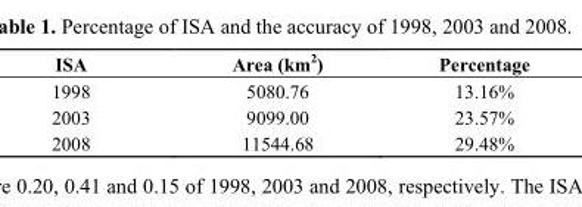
<table><thead><tr><td>ISA</td><td>Area (km<sup>2</sup>)</td><td>Percentage</td></tr></thead><tbody><tr><td>1998</td><td>5080.76</td><td>13.16%</td></tr><tr><td>2003</td><td>9099.00</td><td>23.57%</td></tr><tr><td>2008</td><td>11544.68</td><td>29.48%</td></tr></tbody></table>